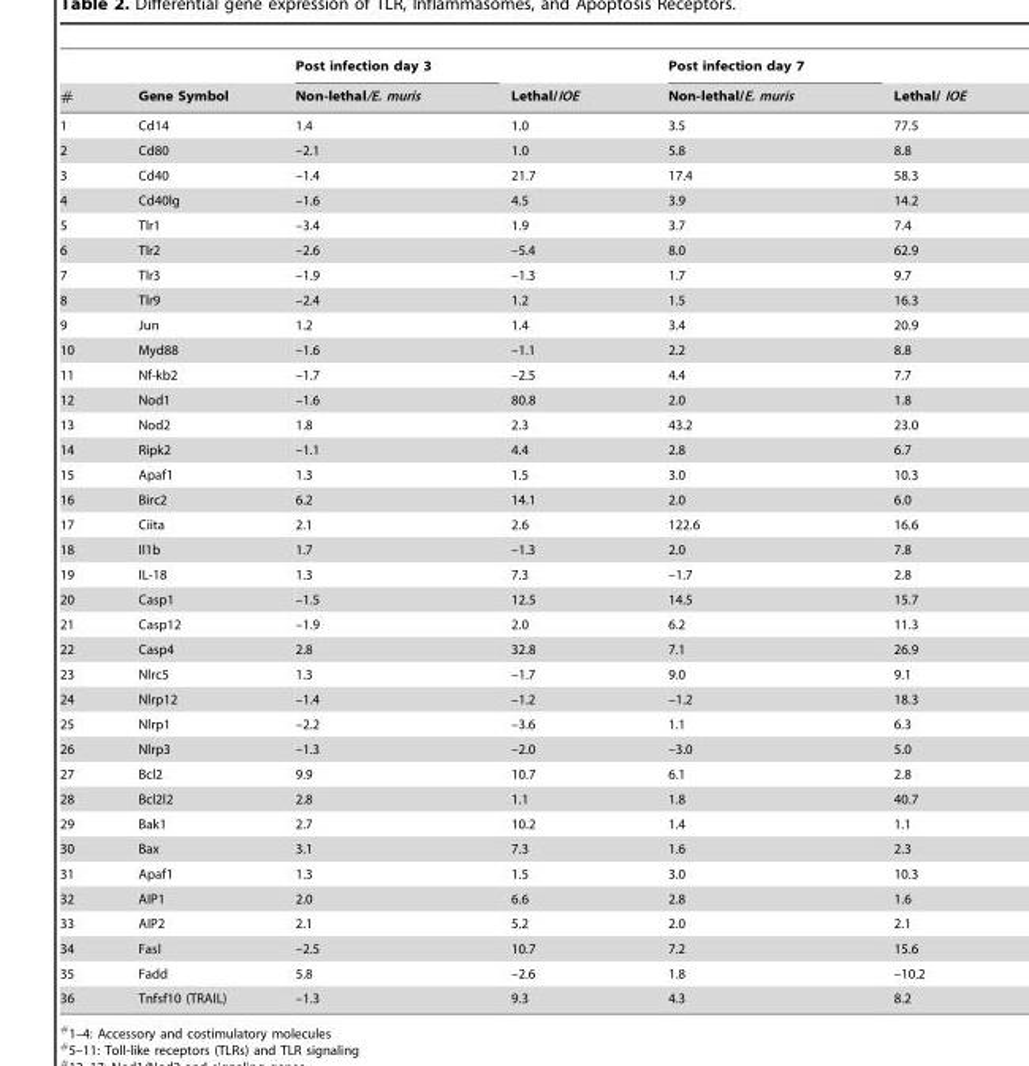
<table><thead><tr><td rowspan="2">#</td><td rowspan="2">Gene Symbol</td><td rowspan="2">Post infection day 3 Non-lethal/E. muris</td><td rowspan="2">Lethal/IOE</td><td rowspan="2">Post infection day 7 Non-lethal/E. muris</td><td rowspan="2">Lethal/ IOE</td></tr><tr></tr></thead><tbody><tr><td>1</td><td>Cd14</td><td>1.4</td><td>1.0</td><td>3.5</td><td>77.5</td></tr><tr><td>2</td><td>Cd80</td><td>–2.1</td><td>1.0</td><td>5.8</td><td>8.8</td></tr><tr><td>3</td><td>Cd40</td><td>–1.4</td><td>21.7</td><td>17.4</td><td>58.3</td></tr><tr><td>4</td><td>Cd40lg</td><td>–1.6</td><td>4.5</td><td>3.9</td><td>14.2</td></tr><tr><td>5</td><td>Tlr1</td><td>–3.4</td><td>1.9</td><td>3.7</td><td>7.4</td></tr><tr><td>6</td><td>Tlr2</td><td>–2.6</td><td>–5.4</td><td>8.0</td><td>62.9</td></tr><tr><td>7</td><td>Tlr3</td><td>–1.9</td><td>–1.3</td><td>1.7</td><td>9.7</td></tr><tr><td>8</td><td>Tlr9</td><td>–2.4</td><td>1.2</td><td>1.5</td><td>16.3</td></tr><tr><td>9</td><td>Jun</td><td>1.2</td><td>1.4</td><td>3.4</td><td>20.9</td></tr><tr><td>10</td><td>Myd88</td><td>–1.6</td><td>–1.1</td><td>2.2</td><td>8.8</td></tr><tr><td>11</td><td>Nf-kb2</td><td>–1.7</td><td>–2.5</td><td>4.4</td><td>7.7</td></tr><tr><td>12</td><td>Nod1</td><td>–1.6</td><td>80.8</td><td>2.0</td><td>1.8</td></tr><tr><td>13</td><td>Nod2</td><td>1.8</td><td>2.3</td><td>43.2</td><td>23.0</td></tr><tr><td>14</td><td>Ripk2</td><td>–1.1</td><td>4.4</td><td>2.8</td><td>6.7</td></tr><tr><td>15</td><td>Apaf1</td><td>1.3</td><td>1.5</td><td>3.0</td><td>10.3</td></tr><tr><td>16</td><td>Birc2</td><td>6.2</td><td>14.1</td><td>2.0</td><td>6.0</td></tr><tr><td>17</td><td>Ciita</td><td>2.1</td><td>2.6</td><td>122.6</td><td>16.6</td></tr><tr><td>18</td><td>Il1b</td><td>1.7</td><td>–1.3</td><td>2.0</td><td>7.8</td></tr><tr><td>19</td><td>IL-18</td><td>1.3</td><td>7.3</td><td>–1.7</td><td>2.8</td></tr><tr><td>20</td><td>Casp1</td><td>–1.5</td><td>12.5</td><td>14.5</td><td>15.7</td></tr><tr><td>21</td><td>Casp12</td><td>–1.9</td><td>2.0</td><td>6.2</td><td>11.3</td></tr><tr><td>22</td><td>Casp4</td><td>2.8</td><td>32.8</td><td>7.1</td><td>26.9</td></tr><tr><td>23</td><td>Nlrc5</td><td>1.3</td><td>–1.7</td><td>9.0</td><td>9.1</td></tr><tr><td>24</td><td>Nlrp12</td><td>–1.4</td><td>–1.2</td><td>–1.2</td><td>18.3</td></tr><tr><td>25</td><td>Nlrp1</td><td>–2.2</td><td>–3.6</td><td>1.1</td><td>6.3</td></tr><tr><td>26</td><td>Nlrp3</td><td>–1.3</td><td>–2.0</td><td>–3.0</td><td>5.0</td></tr><tr><td>27</td><td>Bcl2</td><td>9.9</td><td>10.7</td><td>6.1</td><td>2.8</td></tr><tr><td>28</td><td>Bcl2l2</td><td>2.8</td><td>1.1</td><td>1.8</td><td>40.7</td></tr><tr><td>29</td><td>Bak1</td><td>2.7</td><td>10.2</td><td>1.4</td><td>1.1</td></tr><tr><td>30</td><td>Bax</td><td>3.1</td><td>7.3</td><td>1.6</td><td>2.3</td></tr><tr><td>31</td><td>Apaf1</td><td>1.3</td><td>1.5</td><td>3.0</td><td>10.3</td></tr><tr><td>32</td><td>AIP1</td><td>2.0</td><td>6.6</td><td>2.8</td><td>1.6</td></tr><tr><td>33</td><td>AIP2</td><td>2.1</td><td>5.2</td><td>2.0</td><td>2.1</td></tr><tr><td>34</td><td>Fasl</td><td>–2.5</td><td>10.7</td><td>7.2</td><td>15.6</td></tr><tr><td>35</td><td>Fadd</td><td>5.8</td><td>–2.6</td><td>1.8</td><td>–10.2</td></tr><tr><td>36</td><td>Tnfsf10 (TRAIL)</td><td>–1.3</td><td>9.3</td><td>4.3</td><td>8.2</td></tr></tbody></table>